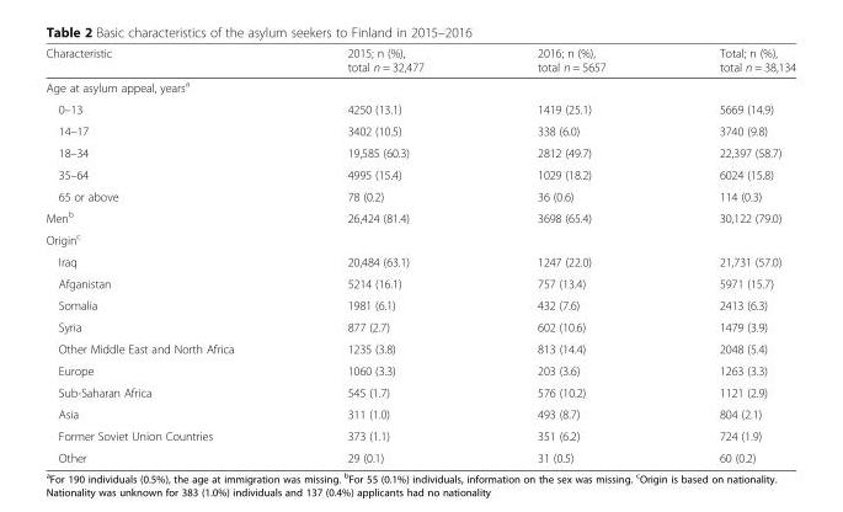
<table><thead><tr><td>Characteristic</td><td>2015; n (%), total n = 32,477</td><td>2016; n (%), total n = 5657</td><td>Total; n (%), total n = 38,134</td></tr></thead><tbody><tr><td colspan="4">Age at asylum appeal, years<sup>a</sup></td></tr><tr><td>0–13</td><td>4250 (13.1)</td><td>1419 (25.1)</td><td>5669 (14.9)</td></tr><tr><td>14–17</td><td>3402 (10.5)</td><td>338 (6.0)</td><td>3740 (9.8)</td></tr><tr><td>18–34</td><td>19,585 (60.3)</td><td>2812 (49.7)</td><td>22,397 (58.7)</td></tr><tr><td>35–64</td><td>4995 (15.4)</td><td>1029 (18.2)</td><td>6024 (15.8)</td></tr><tr><td>65 or above</td><td>78 (0.2)</td><td>36 (0.6)</td><td>114 (0.3)</td></tr><tr><td>Men<sup>b</sup></td><td>26,424 (81.4)</td><td>3698 (65.4)</td><td>30,122 (79.0)</td></tr><tr><td colspan="4">Origin<sup>c</sup></td></tr><tr><td>Iraq</td><td>20,484 (63.1)</td><td>1247 (22.0)</td><td>21,731 (57.0)</td></tr><tr><td>Afganistan</td><td>5214 (16.1)</td><td>757 (13.4)</td><td>5971 (15.7)</td></tr><tr><td>Somalia</td><td>1981 (6.1)</td><td>432 (7.6)</td><td>2413 (6.3)</td></tr><tr><td>Syria</td><td>877 (2.7)</td><td>602 (10.6)</td><td>1479 (3.9)</td></tr><tr><td>Other Middle East and North Africa</td><td>1235 (3.8)</td><td>813 (14.4)</td><td>2048 (5.4)</td></tr><tr><td>Europe</td><td>1060 (3.3)</td><td>203 (3.6)</td><td>1263 (3.3)</td></tr><tr><td>Sub-Saharan Africa</td><td>545 (1.7)</td><td>576 (10.2)</td><td>1121 (2.9)</td></tr><tr><td>Asia</td><td>311 (1.0)</td><td>493 (8.7)</td><td>804 (2.1)</td></tr><tr><td>Former Soviet Union Countries</td><td>373 (1.1)</td><td>351 (6.2)</td><td>724 (1.9)</td></tr><tr><td>Other</td><td>29 (0.1)</td><td>31 (0.5)</td><td>60 (0.2)</td></tr></tbody></table>